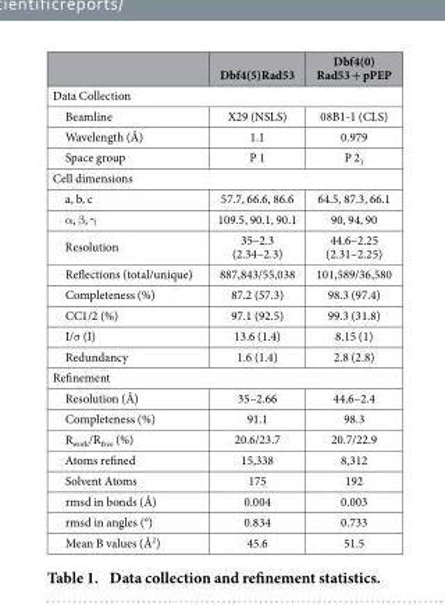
<table><thead><tr><td></td><td>Dbf4(5)Rad53</td><td>Dbf4(0) Rad53 + pPEP</td></tr></thead><tbody><tr><td colspan="3">Data Collection</td></tr><tr><td>Beamline</td><td>X29 (NSLS)</td><td>08B1-1 (CLS)</td></tr><tr><td>Wavelength (Å)</td><td>1.1</td><td>0.979</td></tr><tr><td>Space group</td><td>P 1</td><td>P 2<sub>1</sub></td></tr><tr><td colspan="3">Cell dimensions</td></tr><tr><td>a, b, c</td><td>57.7, 66.6, 86.6</td><td>64.5, 87.3, 66.1</td></tr><tr><td>α , β , γ</td><td>109.5, 90.1, 90.1</td><td>90, 94, 90</td></tr><tr><td>Resolution</td><td>35–2.3 (2.34–2.3)</td><td>44.6–2.25 (2.31–2.25)</td></tr><tr><td>Reflections (total/unique)</td><td>887,843/55,038</td><td>101,589/36,580</td></tr><tr><td>Completeness (%)</td><td>87.2 (57.3)</td><td>98.3 (97.4)</td></tr><tr><td>CC1/2 (%)</td><td>97.1 (92.5)</td><td>99.3 (31.8)</td></tr><tr><td>I/σ (I)</td><td>13.6 (1.4)</td><td>8.15 (1)</td></tr><tr><td>Redundancy</td><td>1.6 (1.4)</td><td>2.8 (2.8)</td></tr><tr><td colspan="3">Refinement</td></tr><tr><td>Resolution (Å)</td><td>35–2.66</td><td>44.6–2.4</td></tr><tr><td>Completeness (%)</td><td>91.1</td><td>98.3</td></tr><tr><td>R<sub>work</sub>/R<sub>free</sub> (%)</td><td>20.6/23.7</td><td>20.7/22.9</td></tr><tr><td>Atoms refined</td><td>15,338</td><td>8,312</td></tr><tr><td>Solvent Atoms</td><td>175</td><td>192</td></tr><tr><td>rmsd in bonds (Å)</td><td>0.004</td><td>0.003</td></tr><tr><td>rmsd in angles (°)</td><td>0.834</td><td>0.733</td></tr><tr><td>Mean B values (Å<sup>2</sup>)</td><td>45.6</td><td>51.5</td></tr></tbody></table>